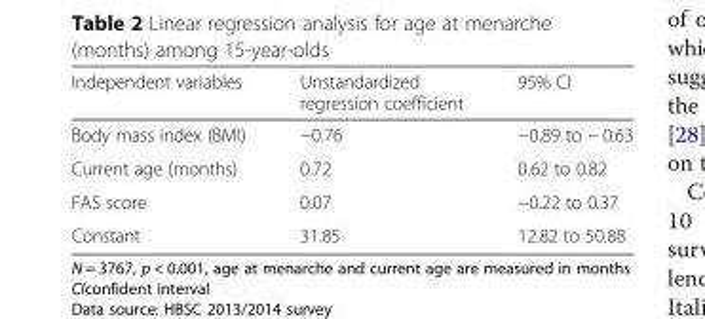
<table><thead><tr><td>Independent variables</td><td>Unstandardized regression coefficient</td><td>95% CI</td></tr></thead><tbody><tr><td>Body mass index (BMI)</td><td>−0.76</td><td>−0.89 to − 0.63</td></tr><tr><td>Current age (months)</td><td>0.72</td><td>0.62 to 0.82</td></tr><tr><td>FAS score</td><td>0.07</td><td>−0.22 to 0.37</td></tr><tr><td>Constant</td><td>31.85</td><td>12.82 to 50.88</td></tr></tbody></table>